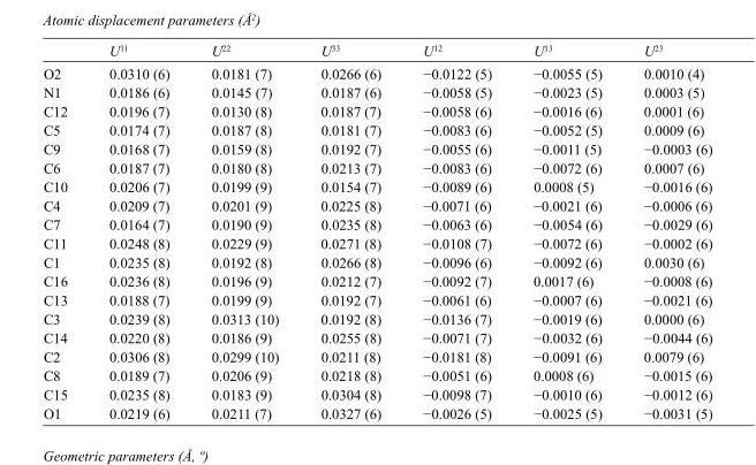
<table><thead><tr><td></td><td>U<sup>11</sup></td><td>U<sup>22</sup></td><td>U<sup>33</sup></td><td>U<sup>12</sup></td><td>U<sup>13</sup></td><td>U<sup>23</sup></td></tr></thead><tbody><tr><td>O2</td><td>0.0310 (6)</td><td>0.0181 (7)</td><td>0.0266 (6)</td><td>−0.0122 (5)</td><td>−0.0055 (5)</td><td>0.0010 (4)</td></tr><tr><td>N1</td><td>0.0186 (6)</td><td>0.0145 (7)</td><td>0.0187 (6)</td><td>−0.0058 (5)</td><td>−0.0023 (5)</td><td>0.0003 (5)</td></tr><tr><td>C12</td><td>0.0196 (7)</td><td>0.0130 (8)</td><td>0.0187 (7)</td><td>−0.0058 (6)</td><td>−0.0016 (6)</td><td>0.0001 (6)</td></tr><tr><td>C5</td><td>0.0174 (7)</td><td>0.0187 (8)</td><td>0.0181 (7)</td><td>−0.0083 (6)</td><td>−0.0052 (5)</td><td>0.0009 (6)</td></tr><tr><td>C9</td><td>0.0168 (7)</td><td>0.0159 (8)</td><td>0.0192 (7)</td><td>−0.0055 (6)</td><td>−0.0011 (5)</td><td>−0.0003 (6)</td></tr><tr><td>C6</td><td>0.0187 (7)</td><td>0.0180 (8)</td><td>0.0213 (7)</td><td>−0.0083 (6)</td><td>−0.0072 (6)</td><td>0.0007 (6)</td></tr><tr><td>C10</td><td>0.0206 (7)</td><td>0.0199 (9)</td><td>0.0154 (7)</td><td>−0.0089 (6)</td><td>0.0008 (5)</td><td>−0.0016 (6)</td></tr><tr><td>C4</td><td>0.0209 (7)</td><td>0.0201 (9)</td><td>0.0225 (8)</td><td>−0.0071 (6)</td><td>−0.0021 (6)</td><td>−0.0006 (6)</td></tr><tr><td>C7</td><td>0.0164 (7)</td><td>0.0190 (9)</td><td>0.0235 (8)</td><td>−0.0063 (6)</td><td>−0.0054 (6)</td><td>−0.0029 (6)</td></tr><tr><td>C11</td><td>0.0248 (8)</td><td>0.0229 (9)</td><td>0.0271 (8)</td><td>−0.0108 (7)</td><td>−0.0072 (6)</td><td>−0.0002 (6)</td></tr><tr><td>C1</td><td>0.0235 (8)</td><td>0.0192 (8)</td><td>0.0266 (8)</td><td>−0.0096 (6)</td><td>−0.0092 (6)</td><td>0.0030 (6)</td></tr><tr><td>C16</td><td>0.0236 (8)</td><td>0.0196 (9)</td><td>0.0212 (7)</td><td>−0.0092 (7)</td><td>0.0017 (6)</td><td>−0.0008 (6)</td></tr><tr><td>C13</td><td>0.0188 (7)</td><td>0.0199 (9)</td><td>0.0192 (7)</td><td>−0.0061 (6)</td><td>−0.0007 (6)</td><td>−0.0021 (6)</td></tr><tr><td>C3</td><td>0.0239 (8)</td><td>0.0313 (10)</td><td>0.0192 (8)</td><td>−0.0136 (7)</td><td>−0.0019 (6)</td><td>0.0000 (6)</td></tr><tr><td>C14</td><td>0.0220 (8)</td><td>0.0186 (9)</td><td>0.0255 (8)</td><td>−0.0071 (7)</td><td>−0.0032 (6)</td><td>−0.0044 (6)</td></tr><tr><td>C2</td><td>0.0306 (8)</td><td>0.0299 (10)</td><td>0.0211 (8)</td><td>−0.0181 (8)</td><td>−0.0091 (6)</td><td>0.0079 (6)</td></tr><tr><td>C8</td><td>0.0189 (7)</td><td>0.0206 (9)</td><td>0.0218 (8)</td><td>−0.0051 (6)</td><td>0.0008 (6)</td><td>−0.0015 (6)</td></tr><tr><td>C15</td><td>0.0235 (8)</td><td>0.0183 (9)</td><td>0.0304 (8)</td><td>−0.0098 (7)</td><td>−0.0010 (6)</td><td>−0.0012 (6)</td></tr><tr><td>O1</td><td>0.0219 (6)</td><td>0.0211 (7)</td><td>0.0327 (6)</td><td>−0.0026 (5)</td><td>−0.0025 (5)</td><td>−0.0031 (5)</td></tr></tbody></table>